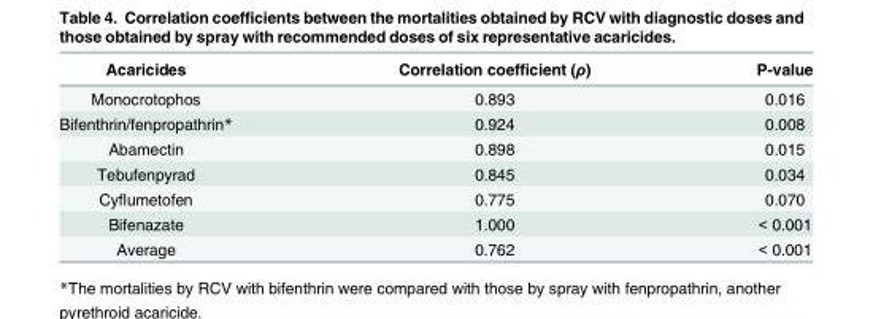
<table><thead><tr><td>Acaricides</td><td>Correlation coefficient (ρ)</td><td>P-value</td></tr></thead><tbody><tr><td>Monocrotophos</td><td>0.893</td><td>0.016</td></tr><tr><td>Bifenthrin/fenpropathrin*</td><td>0.924</td><td>0.008</td></tr><tr><td>Abamectin</td><td>0.898</td><td>0.015</td></tr><tr><td>Tebufenpyrad</td><td>0.845</td><td>0.034</td></tr><tr><td>Cyflumetofen</td><td>0.775</td><td>0.070</td></tr><tr><td>Bifenazate</td><td>1.000</td><td>&lt; 0.001</td></tr><tr><td>Average</td><td>0.762</td><td>&lt; 0.001</td></tr></tbody></table>